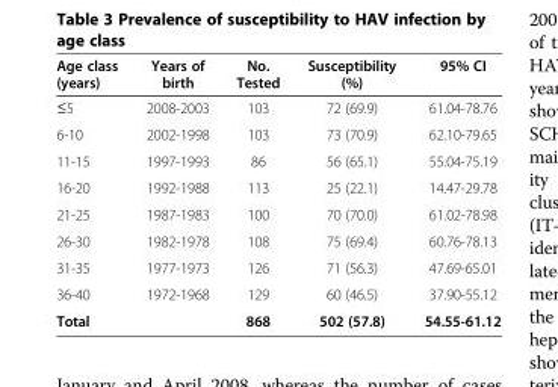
<table><thead><tr><td>Age class (years)</td><td>Years of birth</td><td>No. Tested</td><td>Susceptibility (%)</td><td>95% CI</td></tr></thead><tbody><tr><td>≤5</td><td>2008-2003</td><td>103</td><td>72 (69.9)</td><td>61.04-78.76</td></tr><tr><td>6-10</td><td>2002-1998</td><td>103</td><td>73 (70.9)</td><td>62.10-79.65</td></tr><tr><td>11-15</td><td>1997-1993</td><td>86</td><td>56 (65.1)</td><td>55.04-75.19</td></tr><tr><td>16-20</td><td>1992-1988</td><td>113</td><td>25 (22.1)</td><td>14.47-29.78</td></tr><tr><td>21-25</td><td>1987-1983</td><td>100</td><td>70 (70.0)</td><td>61.02-78.98</td></tr><tr><td>26-30</td><td>1982-1978</td><td>108</td><td>75 (69.4)</td><td>60.76-78.13</td></tr><tr><td>31-35</td><td>1977-1973</td><td>126</td><td>71 (56.3)</td><td>47.69-65.01</td></tr><tr><td>36-40</td><td>1972-1968</td><td>129</td><td>60 (46.5)</td><td>37.90-55.12</td></tr><tr><td>Total</td><td></td><td>868</td><td>502 (57.8)</td><td>54.55-61.12</td></tr></tbody></table>